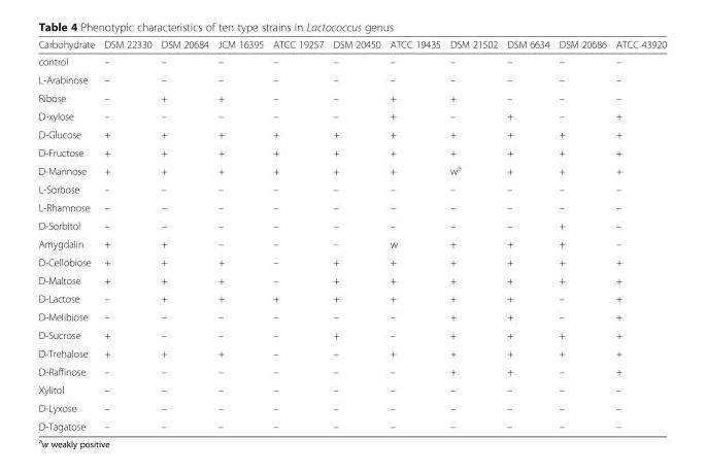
<table><thead><tr><td>Carbohydrate</td><td>DSM 22330</td><td>DSM 20684</td><td>JCM 16395</td><td>ATCC 19257</td><td>DSM 20450</td><td>ATCC 19435</td><td>DSM 21502</td><td>DSM 6634</td><td>DSM 20686</td><td>ATCC 43920</td></tr></thead><tbody><tr><td>control</td><td>–</td><td>–</td><td>–</td><td>–</td><td>–</td><td>–</td><td>–</td><td>–</td><td>–</td><td>–</td></tr><tr><td>L-Arabinose</td><td>–</td><td>–</td><td>–</td><td>–</td><td>–</td><td>–</td><td>–</td><td>–</td><td>–</td><td>–</td></tr><tr><td>Ribose</td><td>–</td><td>+</td><td>+</td><td>–</td><td>–</td><td>+</td><td>+</td><td>–</td><td>–</td><td>–</td></tr><tr><td>D-xylose</td><td>–</td><td>–</td><td>–</td><td>–</td><td>–</td><td>+</td><td>–</td><td>+</td><td>–</td><td>+</td></tr><tr><td>D-Glucose</td><td>+</td><td>+</td><td>+</td><td>+</td><td>+</td><td>+</td><td>+</td><td>+</td><td>+</td><td>+</td></tr><tr><td>D-Fructose</td><td>+</td><td>+</td><td>+</td><td>+</td><td>+</td><td>+</td><td>+</td><td>+</td><td>+</td><td>+</td></tr><tr><td>D-Mannose</td><td>+</td><td>+</td><td>+</td><td>+</td><td>+</td><td>+</td><td>w<sup>a</sup></td><td>+</td><td>+</td><td>+</td></tr><tr><td>L-Sorbose</td><td>–</td><td>–</td><td>–</td><td>–</td><td>–</td><td>–</td><td>–</td><td>–</td><td>–</td><td>–</td></tr><tr><td>L-Rhamnose</td><td>–</td><td>–</td><td>–</td><td>–</td><td>–</td><td>–</td><td>–</td><td>–</td><td>–</td><td>–</td></tr><tr><td>D-Sorbitol</td><td>–</td><td>–</td><td>–</td><td>–</td><td>–</td><td>–</td><td>–</td><td>–</td><td>+</td><td>–</td></tr><tr><td>Amygdalin</td><td>+</td><td>+</td><td>–</td><td>–</td><td>–</td><td>w</td><td>+</td><td>+</td><td>+</td><td>–</td></tr><tr><td>D-Cellobiose</td><td>+</td><td>+</td><td>+</td><td>–</td><td>+</td><td>+</td><td>+</td><td>+</td><td>+</td><td>+</td></tr><tr><td>D-Maltose</td><td>+</td><td>+</td><td>+</td><td>–</td><td>+</td><td>+</td><td>+</td><td>+</td><td>+</td><td>+</td></tr><tr><td>D-Lactose</td><td>–</td><td>+</td><td>+</td><td>+</td><td>+</td><td>+</td><td>+</td><td>+</td><td>–</td><td>+</td></tr><tr><td>D-Melibiose</td><td>–</td><td>–</td><td>–</td><td>–</td><td>–</td><td>–</td><td>+</td><td>+</td><td>–</td><td>+</td></tr><tr><td>D-Sucrose</td><td>+</td><td>–</td><td>–</td><td>–</td><td>+</td><td>–</td><td>+</td><td>+</td><td>+</td><td>+</td></tr><tr><td>D-Trehalose</td><td>+</td><td>+</td><td>+</td><td>–</td><td>–</td><td>+</td><td>+</td><td>+</td><td>+</td><td>+</td></tr><tr><td>D-Raffinose</td><td>–</td><td>–</td><td>–</td><td>–</td><td>–</td><td>–</td><td>+</td><td>+</td><td>–</td><td>+</td></tr><tr><td>Xylitol</td><td>–</td><td>–</td><td>–</td><td>–</td><td>–</td><td>–</td><td>–</td><td>–</td><td>–</td><td>–</td></tr><tr><td>D-Lyxose</td><td>–</td><td>–</td><td>–</td><td>–</td><td>–</td><td>–</td><td>–</td><td>–</td><td>–</td><td>–</td></tr><tr><td>D-Tagatose</td><td>–</td><td>–</td><td>–</td><td>–</td><td>–</td><td>–</td><td>–</td><td>–</td><td>–</td><td>–</td></tr></tbody></table>